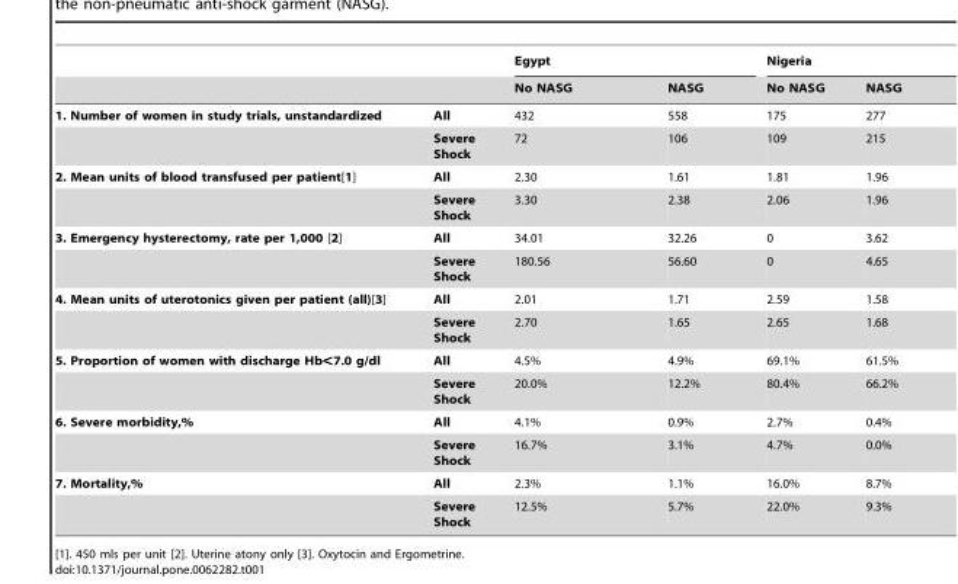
<table><thead><tr><td rowspan="2"></td><td rowspan="2"></td><td colspan="2">Egypt</td><td colspan="2">Nigeria</td></tr><tr><td>No NASG</td><td>NASG</td><td>No NASG</td><td>NASG</td></tr></thead><tbody><tr><td rowspan="2">1. Number of women in study trials, unstandardized</td><td>All</td><td>432</td><td>558</td><td>175</td><td>277</td></tr><tr><td>Severe Shock</td><td>72</td><td>106</td><td>109</td><td>215</td></tr><tr><td rowspan="2">2. Mean units of blood transfused per patient[1]</td><td>All</td><td>2.30</td><td>1.61</td><td>1.81</td><td>1.96</td></tr><tr><td>Severe Shock</td><td>3.30</td><td>2.38</td><td>2.06</td><td>1.96</td></tr><tr><td rowspan="2">3. Emergency hysterectomy, rate per 1,000 [2]</td><td>All</td><td>34.01</td><td>32.26</td><td>0</td><td>3.62</td></tr><tr><td>Severe Shock</td><td>180.56</td><td>56.60</td><td>0</td><td>4.65</td></tr><tr><td rowspan="2">4. Mean units of uterotonics given per patient (all)[3]</td><td>All</td><td>2.01</td><td>1.71</td><td>2.59</td><td>1.58</td></tr><tr><td>Severe Shock</td><td>2.70</td><td>1.65</td><td>2.65</td><td>1.68</td></tr><tr><td rowspan="2">5. Proportion of women with discharge Hb&lt;7.0 g/dl</td><td>All</td><td>4.5%</td><td>4.9%</td><td>69.1%</td><td>61.5%</td></tr><tr><td>Severe Shock</td><td>20.0%</td><td>12.2%</td><td>80.4%</td><td>66.2%</td></tr><tr><td rowspan="2">6. Severe morbidity,%</td><td>All</td><td>4.1%</td><td>0.9%</td><td>2.7%</td><td>0.4%</td></tr><tr><td>Severe Shock</td><td>16.7%</td><td>3.1%</td><td>4.7%</td><td>0.0%</td></tr><tr><td rowspan="2">7. Mortality,%</td><td>All</td><td>2.3%</td><td>1.1%</td><td>16.0%</td><td>8.7%</td></tr><tr><td>Severe Shock</td><td>12.5%</td><td>5.7%</td><td>22.0%</td><td>9.3%</td></tr></tbody></table>